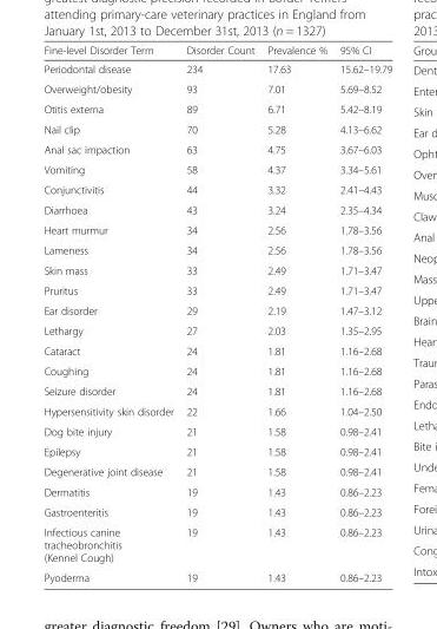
<table><thead><tr><td>Fine-level Disorder Term</td><td>Disorder Count</td><td>Prevalence %</td><td>95% CI</td></tr></thead><tbody><tr><td>Periodontal disease</td><td>234</td><td>17.63</td><td>15.62–19.79</td></tr><tr><td>Overweight/obesity</td><td>93</td><td>7.01</td><td>5.69–8.52</td></tr><tr><td>Otitis externa</td><td>89</td><td>6.71</td><td>5.42–8.19</td></tr><tr><td>Nail clip</td><td>70</td><td>5.28</td><td>4.13–6.62</td></tr><tr><td>Anal sac impaction</td><td>63</td><td>4.75</td><td>3.67–6.03</td></tr><tr><td>Vomiting</td><td>58</td><td>4.37</td><td>3.34–5.61</td></tr><tr><td>Conjunctivitis</td><td>44</td><td>3.32</td><td>2.41–4.43</td></tr><tr><td>Diarrhoea</td><td>43</td><td>3.24</td><td>2.35–4.34</td></tr><tr><td>Heart murmur</td><td>34</td><td>2.56</td><td>1.78–3.56</td></tr><tr><td>Lameness</td><td>34</td><td>2.56</td><td>1.78–3.56</td></tr><tr><td>Skin mass</td><td>33</td><td>2.49</td><td>1.71–3.47</td></tr><tr><td>Pruritus</td><td>33</td><td>2.49</td><td>1.71–3.47</td></tr><tr><td>Ear disorder</td><td>29</td><td>2.19</td><td>1.47–3.12</td></tr><tr><td>Lethargy</td><td>27</td><td>2.03</td><td>1.35–2.95</td></tr><tr><td>Cataract</td><td>24</td><td>1.81</td><td>1.16–2.68</td></tr><tr><td>Coughing</td><td>24</td><td>1.81</td><td>1.16–2.68</td></tr><tr><td>Seizure disorder</td><td>24</td><td>1.81</td><td>1.16–2.68</td></tr><tr><td>Hypersensitivity skin disorder</td><td>22</td><td>1.66</td><td>1.04–2.50</td></tr><tr><td>Dog bite injury</td><td>21</td><td>1.58</td><td>0.98–2.41</td></tr><tr><td>Epilepsy</td><td>21</td><td>1.58</td><td>0.98–2.41</td></tr><tr><td>Degenerative joint disease</td><td>21</td><td>1.58</td><td>0.98–2.41</td></tr><tr><td>Dermatitis</td><td>19</td><td>1.43</td><td>0.86–2.23</td></tr><tr><td>Gastroenteritis</td><td>19</td><td>1.43</td><td>0.86–2.23</td></tr><tr><td>Infectious canine tracheobronchitis (Kennel Cough)</td><td>19</td><td>1.43</td><td>0.86–2.23</td></tr><tr><td>Pyoderma</td><td>19</td><td>1.43</td><td>0.86–2.23</td></tr></tbody></table>